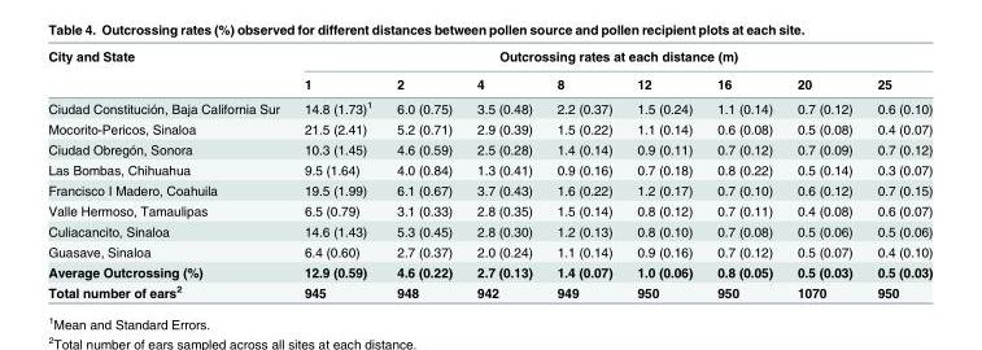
<table><thead><tr><td rowspan="2">City and State</td><td colspan="8">Outcrossing rates at each distance (m)</td></tr><tr><td>1</td><td>2</td><td>4</td><td>8</td><td>12</td><td>16</td><td>20</td><td>25</td></tr></thead><tbody><tr><td>Ciudad Constitución, Baja California Sur</td><td>14.8 (1.73)<sup>1</sup></td><td>6.0 (0.75)</td><td>3.5 (0.48)</td><td>2.2 (0.37)</td><td>1.5 (0.24)</td><td>1.1 (0.14)</td><td>0.7 (0.12)</td><td>0.6 (0.10)</td></tr><tr><td>Mocorito-Pericos, Sinaloa</td><td>21.5 (2.41)</td><td>5.2 (0.71)</td><td>2.9 (0.39)</td><td>1.5 (0.22)</td><td>1.1 (0.14)</td><td>0.6 (0.08)</td><td>0.5 (0.08)</td><td>0.4 (0.07)</td></tr><tr><td>Ciudad Obregón, Sonora</td><td>10.3 (1.45)</td><td>4.6 (0.59)</td><td>2.5 (0.28)</td><td>1.4 (0.14)</td><td>0.9 (0.11)</td><td>0.7 (0.12)</td><td>0.7 (0.09)</td><td>0.7 (0.12)</td></tr><tr><td>Las Bombas, Chihuahua</td><td>9.5 (1.64)</td><td>4.0 (0.84)</td><td>1.3 (0.41)</td><td>0.9 (0.16)</td><td>0.7 (0.18)</td><td>0.8 (0.22)</td><td>0.5 (0.14)</td><td>0.3 (0.07)</td></tr><tr><td>Francisco I Madero, Coahuila</td><td>19.5 (1.99)</td><td>6.1 (0.67)</td><td>3.7 (0.43)</td><td>1.6 (0.22)</td><td>1.2 (0.17)</td><td>0.7 (0.10)</td><td>0.6 (0.12)</td><td>0.7 (0.15)</td></tr><tr><td>Valle Hermoso, Tamaulipas</td><td>6.5 (0.79)</td><td>3.1 (0.33)</td><td>2.8 (0.35)</td><td>1.5 (0.14)</td><td>0.8 (0.12)</td><td>0.7 (0.11)</td><td>0.4 (0.08)</td><td>0.6 (0.07)</td></tr><tr><td>Culiacancito, Sinaloa</td><td>14.6 (1.43)</td><td>5.3 (0.45)</td><td>2.8 (0.30)</td><td>1.2 (0.13)</td><td>0.8 (0.10)</td><td>0.7 (0.08)</td><td>0.5 (0.06)</td><td>0.5 (0.06)</td></tr><tr><td>Guasave, Sinaloa</td><td>6.4 (0.60)</td><td>2.7 (0.37)</td><td>2.0 (0.24)</td><td>1.1 (0.14)</td><td>0.9 (0.16)</td><td>0.7 (0.12)</td><td>0.5 (0.07)</td><td>0.4 (0.10)</td></tr><tr><td>Average Outcrossing (%)</td><td>12.9 (0.59)</td><td>4.6 (0.22)</td><td>2.7 (0.13)</td><td>1.4 (0.07)</td><td>1.0 (0.06)</td><td>0.8 (0.05)</td><td>0.5 (0.03)</td><td>0.5 (0.03)</td></tr><tr><td>Total number of ears<sup>2</sup></td><td>945</td><td>948</td><td>942</td><td>949</td><td>950</td><td>950</td><td>1070</td><td>950</td></tr></tbody></table>